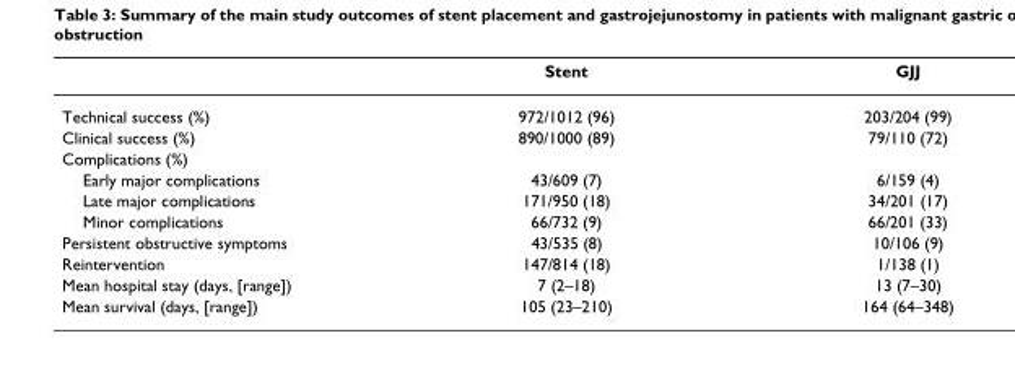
<table><thead><tr><td></td><td>Stent</td><td>GJJ</td></tr></thead><tbody><tr><td>Technical success (%)</td><td>972/1012 (96)</td><td>203/204 (99)</td></tr><tr><td>Clinical success (%)</td><td>890/1000 (89)</td><td>79/110 (72)</td></tr><tr><td colspan="3">Complications (%)</td></tr><tr><td>Early major complications</td><td>43/609 (7)</td><td>6/159 (4)</td></tr><tr><td>Late major complications</td><td>171/950 (18)</td><td>34/201 (17)</td></tr><tr><td>Minor complications</td><td>66/732 (9)</td><td>66/201 (33)</td></tr><tr><td>Persistent obstructive symptoms</td><td>43/535 (8)</td><td>10/106 (9)</td></tr><tr><td>Reintervention</td><td>147/814 (18)</td><td>1/138 (1)</td></tr><tr><td>Mean hospital stay (days, [range])</td><td>7 (2–18)</td><td>13 (7–30)</td></tr><tr><td>Mean survival (days, [range])</td><td>105 (23–210)</td><td>164 (64–348)</td></tr></tbody></table>